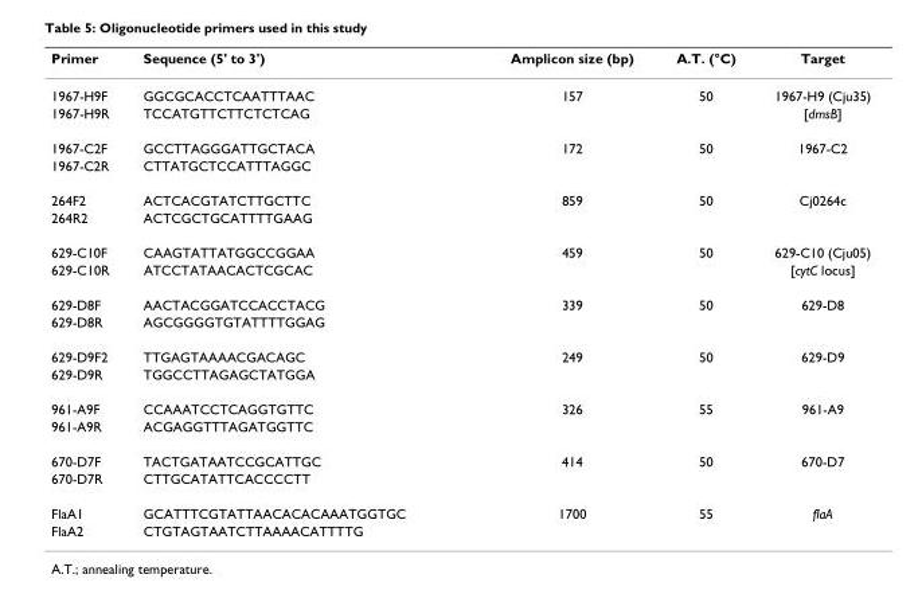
<table><thead><tr><td>Primer</td><td>Sequence (5&#x27; to 3&#x27;)</td><td>Amplicon size (bp)</td><td>A.T. (°C)</td><td>Target</td></tr></thead><tbody><tr><td>1967-H9F</td><td>GGCGCACCTCAATTTAAC</td><td>157</td><td>50</td><td>1967-H9 (Cju35)</td></tr><tr><td>1967-H9R</td><td>TCCATGTTCTTCTCTCAG</td><td></td><td></td><td>[dmsB]</td></tr><tr><td>1967-C2F</td><td>GCCTTAGGGATTGCTACA</td><td>172</td><td>50</td><td>1967-C2</td></tr><tr><td>1967-C2R</td><td>CTTATGCTCCATTTAGGC</td><td></td><td></td><td></td></tr><tr><td>264F2</td><td>ACTCACGTATCTTGCTTC</td><td>859</td><td>50</td><td>Cj0264c</td></tr><tr><td>264R2</td><td>ACTCGCTGCATTTTGAAG</td><td></td><td></td><td></td></tr><tr><td>629-C10F</td><td>CAAGTATTATGGCCGGAA</td><td>459</td><td>50</td><td>629-C10 (Cju05)</td></tr><tr><td>629-C10R</td><td>ATCCTATAACACTCGCAC</td><td></td><td></td><td>[cytC locus]</td></tr><tr><td>629-D8F</td><td>AACTACGGATCCACCTACG</td><td>339</td><td>50</td><td>629-D8</td></tr><tr><td>629-D8R</td><td>AGCGGGGTGTATTTTGGAG</td><td></td><td></td><td></td></tr><tr><td>629-D9F2</td><td>TTGAGTAAAACGACAGC</td><td>249</td><td>50</td><td>629-D9</td></tr><tr><td>629-D9R</td><td>TGGCCTTAGAGCTATGGA</td><td></td><td></td><td></td></tr><tr><td>961-A9F</td><td>CCAAATCCTCAGGTGTTC</td><td>326</td><td>55</td><td>961-A9</td></tr><tr><td>961-A9R</td><td>ACGAGGTTTAGATGGTTC</td><td></td><td></td><td></td></tr><tr><td>670-D7F</td><td>TACTGATAATCCGCATTGC</td><td>414</td><td>50</td><td>670-D7</td></tr><tr><td>670-D7R</td><td>CTTGCATATTCACCCCTT</td><td></td><td></td><td></td></tr><tr><td>FlaA1</td><td>GCATTTCGTATTAACACACAAATGGTGC</td><td>1700</td><td>55</td><td>flaA</td></tr><tr><td>FlaA2</td><td>CTGTAGTAATCTTAAAACATTTTG</td><td></td><td></td><td></td></tr></tbody></table>